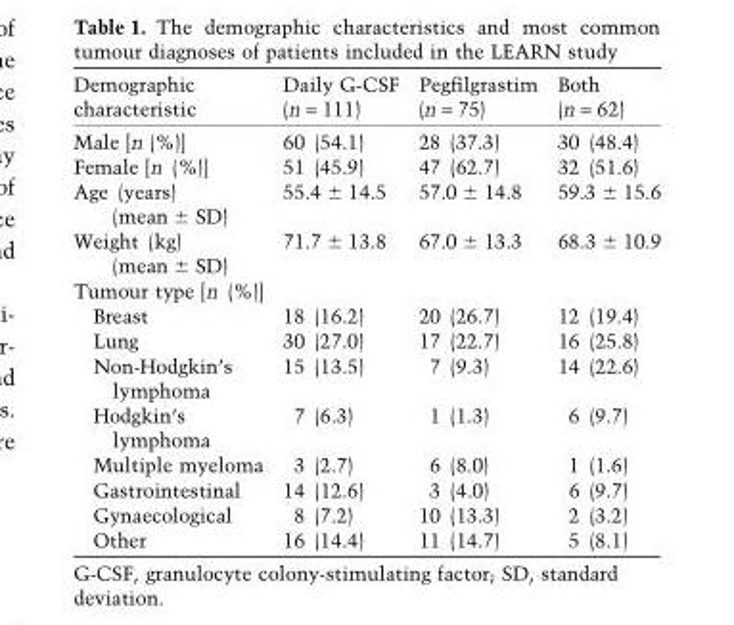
<table><thead><tr><td>Demographic characteristic</td><td>Daily G-CSF (n = 111)</td><td>Pegfilgrastim (n = 75)</td><td>Both (n = 62)</td></tr></thead><tbody><tr><td>Male [n (%)]</td><td>60 (54.1)</td><td>28 (37.3)</td><td>30 (48.4)</td></tr><tr><td>Female [n (%)]</td><td>51 (45.9)</td><td>47 (62.7)</td><td>32 (51.6)</td></tr><tr><td>Age (years) (mean ± SD)</td><td>55.4 ± 14.5</td><td>57.0 ± 14.8</td><td>59.3 ± 15.6</td></tr><tr><td>Weight (kg) (mean ± SD)</td><td>71.7 ± 13.8</td><td>67.0 ± 13.3</td><td>68.3 ± 10.9</td></tr><tr><td colspan="4">Tumour type [n (%)]</td></tr><tr><td>Breast</td><td>18 (16.2)</td><td>20 (26.7)</td><td>12 (19.4)</td></tr><tr><td>Lung</td><td>30 (27.0)</td><td>17 (22.7)</td><td>16 (25.8)</td></tr><tr><td>Non-Hodgkin’s lymphoma</td><td>15 (13.5)</td><td>7 (9.3)</td><td>14 (22.6)</td></tr><tr><td>Hodgkin’s lymphoma</td><td>7 (6.3)</td><td>1 (1.3)</td><td>6 (9.7)</td></tr><tr><td>Multiple myeloma</td><td>3 (2.7)</td><td>6 (8.0)</td><td>1 (1.6)</td></tr><tr><td>Gastrointestinal</td><td>14 (12.6)</td><td>3 (4.0)</td><td>6 (9.7)</td></tr><tr><td>Gynaecological</td><td>8 (7.2)</td><td>10 (13.3)</td><td>2 (3.2)</td></tr><tr><td>Other</td><td>16 (14.4)</td><td>11 (14.7)</td><td>5 (8.1)</td></tr></tbody></table>